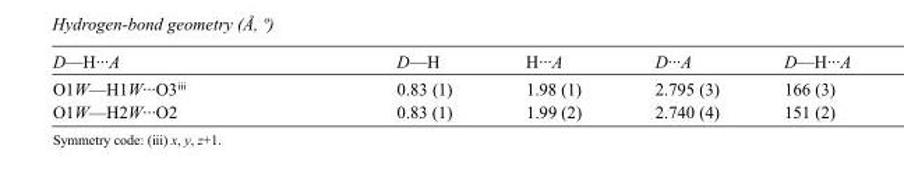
<table><tbody><tr><td>D—H···A</td><td>D—H</td><td>H···A</td><td>D···A</td><td>D—H···A</td></tr><tr><td>O1W—H1W···O3<sup>iii</sup></td><td>0.83 (1)</td><td>1.98 (1)</td><td>2.795 (3)</td><td>166 (3)</td></tr><tr><td>O1W—H2W···O2</td><td>0.83 (1)</td><td>1.99 (2)</td><td>2.740 (4)</td><td>151 (2)</td></tr></tbody></table>